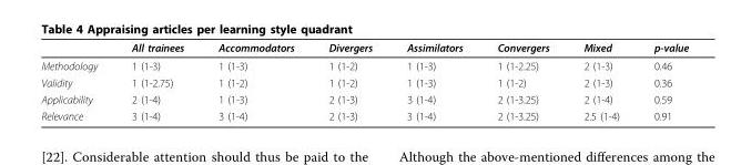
<table><thead><tr><td></td><td>All trainees</td><td>Accommodators</td><td>Divergers</td><td>Assimilators</td><td>Convergers</td><td>Mixed</td><td>p-value</td></tr></thead><tbody><tr><td>Methodology</td><td>1 (1-3)</td><td>1 (1-3)</td><td>1 (1-2)</td><td>1 (1-3)</td><td>1 (1-2.25)</td><td>2 (1-3)</td><td>0.46</td></tr><tr><td>Validity</td><td>1 (1-2.75)</td><td>1 (1-2)</td><td>1 (1-2)</td><td>1 (1-3)</td><td>1 (1-2)</td><td>2 (1-3)</td><td>0.36</td></tr><tr><td>Applicability</td><td>2 (1-4)</td><td>1 (1-3)</td><td>2 (1-3)</td><td>3 (1-4)</td><td>2 (1-3.25)</td><td>2 (1-4)</td><td>0.59</td></tr><tr><td>Relevance</td><td>3 (1-4)</td><td>3 (1-4)</td><td>2 (1-3)</td><td>3 (1-4)</td><td>2 (1-3.25)</td><td>2.5 (1-4)</td><td>0.91</td></tr></tbody></table>